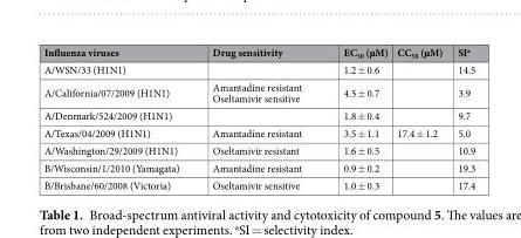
<table><thead><tr><td>Influenza viruses</td><td>Drug sensitivity</td><td>EC<sub>50</sub> (µM)</td><td>CC<sub>50</sub> (µM)</td><td>SI<sup>a</sup></td></tr></thead><tbody><tr><td>A/WSN/33 (H1N1)</td><td></td><td>1.2 ± 0.6</td><td></td><td>14.5</td></tr><tr><td>A/California/07/2009 (H1N1)</td><td>Amantadine resistant Oseltamivir sensitive</td><td>4.5 ± 0.7</td><td></td><td>3.9</td></tr><tr><td>A/Denmark/524/2009 (H1N1)</td><td></td><td>1.8 ± 0.4</td><td></td><td>9.7</td></tr><tr><td>A/Texas/04/2009 (H1N1)</td><td>Amantadine resistant</td><td>3.5 ± 1.1</td><td>17.4 ± 1.2</td><td>5.0</td></tr><tr><td>A/Washington/29/2009 (H1N1)</td><td>Oseltamivir resistant</td><td>1.6 ± 0.5</td><td></td><td>10.9</td></tr><tr><td>B/Wisconsin/1/2010 (Yamagata)</td><td>Amantadine resistant</td><td>0.9 ± 0.2</td><td></td><td>19.3</td></tr><tr><td>B/Brisbane/60/2008 (Victoria)</td><td>Oseltamivir sensitive</td><td>1.0 ± 0.3</td><td></td><td>17.4</td></tr></tbody></table>